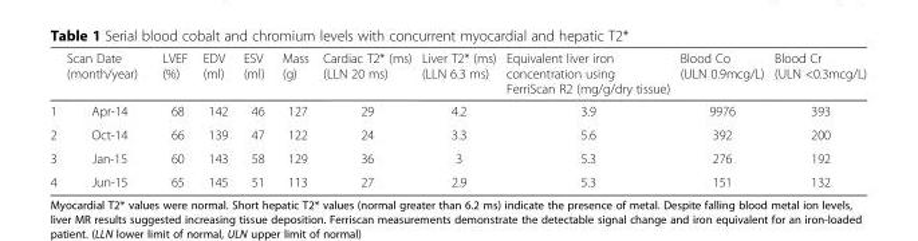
<table><thead><tr><td></td><td>Scan Date (month/year)</td><td>LVEF (%)</td><td>EDV (ml)</td><td>ESV (ml)</td><td>Mass (g)</td><td>Cardiac T2* (ms) (LLN 20 ms)</td><td>Liver T2* (ms) (LLN 6.3 ms)</td><td>Equivalent liver iron concentration using FerriScan R2 (mg/g/dry tissue)</td><td>Blood Co (ULN 0.9mcg/L)</td><td>Blood Cr (ULN &lt;0.3mcg/L)</td></tr></thead><tbody><tr><td>1</td><td>Apr-14</td><td>68</td><td>142</td><td>46</td><td>127</td><td>29</td><td>4.2</td><td>3.9</td><td>9976</td><td>393</td></tr><tr><td>2</td><td>Oct-14</td><td>66</td><td>139</td><td>47</td><td>122</td><td>24</td><td>3.3</td><td>5.6</td><td>392</td><td>200</td></tr><tr><td>3</td><td>Jan-15</td><td>60</td><td>143</td><td>58</td><td>129</td><td>36</td><td>3</td><td>5.3</td><td>276</td><td>192</td></tr><tr><td>4</td><td>Jun-15</td><td>65</td><td>145</td><td>51</td><td>113</td><td>27</td><td>2.9</td><td>5.3</td><td>151</td><td>132</td></tr></tbody></table>